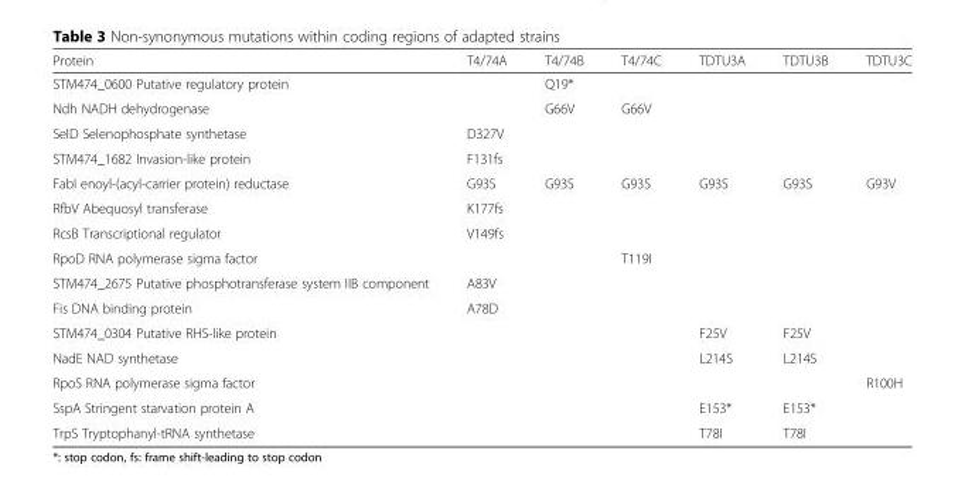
<table><thead><tr><td>Protein</td><td>T4/74A</td><td>T4/74B</td><td>T4/74C</td><td>TDTU3A</td><td>TDTU3B</td><td>TDTU3C</td></tr></thead><tbody><tr><td>STM474_0600 Putative regulatory protein</td><td></td><td>Q19*</td><td></td><td></td><td></td><td></td></tr><tr><td>Ndh NADH dehydrogenase</td><td></td><td>G66V</td><td>G66V</td><td></td><td></td><td></td></tr><tr><td>SelD Selenophosphate synthetase</td><td>D327V</td><td></td><td></td><td></td><td></td><td></td></tr><tr><td>STM474_1682 Invasion-like protein</td><td>F131fs</td><td></td><td></td><td></td><td></td><td></td></tr><tr><td>FabI enoyl-(acyl-carrier protein) reductase</td><td>G93S</td><td>G93S</td><td>G93S</td><td>G93S</td><td>G93S</td><td>G93V</td></tr><tr><td>RfbV Abequosyl transferase</td><td>K177fs</td><td></td><td></td><td></td><td></td><td></td></tr><tr><td>RcsB Transcriptional regulator</td><td>V149fs</td><td></td><td></td><td></td><td></td><td></td></tr><tr><td>RpoD RNA polymerase sigma factor</td><td></td><td></td><td>T119I</td><td></td><td></td><td></td></tr><tr><td>STM474_2675 Putative phosphotransferase system IIB component</td><td>A83V</td><td></td><td></td><td></td><td></td><td></td></tr><tr><td>Fis DNA binding protein</td><td>A78D</td><td></td><td></td><td></td><td></td><td></td></tr><tr><td>STM474_0304 Putative RHS-like protein</td><td></td><td></td><td></td><td>F25V</td><td>F25V</td><td></td></tr><tr><td>NadE NAD synthetase</td><td></td><td></td><td></td><td>L214S</td><td>L214S</td><td></td></tr><tr><td>RpoS RNA polymerase sigma factor</td><td></td><td></td><td></td><td></td><td></td><td>R100H</td></tr><tr><td>SspA Stringent starvation protein A</td><td></td><td></td><td></td><td>E153*</td><td>E153*</td><td></td></tr><tr><td>TrpS Tryptophanyl-tRNA synthetase</td><td></td><td></td><td></td><td>T78I</td><td>T78I</td><td></td></tr></tbody></table>